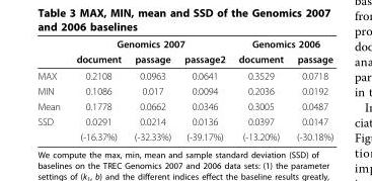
<table><thead><tr><td rowspan="2"></td><td colspan="3">Genomics 2007</td><td colspan="2">Genomics 2006</td></tr><tr><td>document</td><td>passage</td><td>passage2</td><td>document</td><td>passage</td></tr></thead><tbody><tr><td>MAX</td><td>0.2108</td><td>0.0963</td><td>0.0641</td><td>0.3529</td><td>0.0718</td></tr><tr><td>MIN</td><td>0.1086</td><td>0.017</td><td>0.0094</td><td>0.2036</td><td>0.0192</td></tr><tr><td>Mean</td><td>0.1778</td><td>0.0662</td><td>0.0346</td><td>0.3005</td><td>0.0487</td></tr><tr><td rowspan="2">SSD</td><td>0.0291</td><td>0.0214</td><td>0.0136</td><td>0.0397</td><td>0.0147</td></tr><tr><td>(-16.37%)</td><td>(-32.33%)</td><td>(-39.17%)</td><td>(-13.20%)</td><td>(-30.18%)</td></tr></tbody></table>